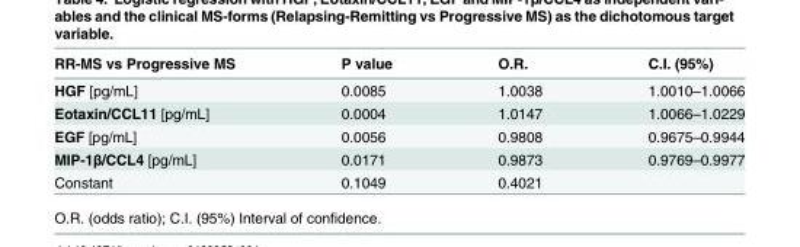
<table><thead><tr><td>RR-MS vs Progressive MS</td><td>P value</td><td>O.R.</td><td>C.I. (95%)</td></tr></thead><tbody><tr><td>HGF [pg/mL]</td><td>0.0085</td><td>1.0038</td><td>1.0010–1.0066</td></tr><tr><td>Eotaxin/CCL11 [pg/mL]</td><td>0.0004</td><td>1.0147</td><td>1.0066–1.0229</td></tr><tr><td>EGF [pg/mL]</td><td>0.0056</td><td>0.9808</td><td>0.9675–0.9944</td></tr><tr><td>MIP-1β/CCL4 [pg/mL]</td><td>0.0171</td><td>0.9873</td><td>0.9769–0.9977</td></tr><tr><td>Constant</td><td>0.1049</td><td>0.4021</td><td></td></tr></tbody></table>